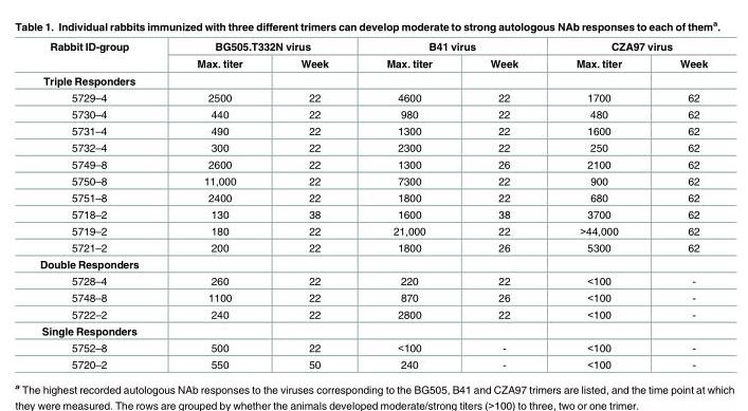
<table><thead><tr><td rowspan="2">Rabbit ID-group</td><td colspan="2">BG505.T332N virus</td><td colspan="2">B41 virus</td><td colspan="2">CZA97 virus</td></tr><tr><td>Max. titer</td><td>Week</td><td>Max. titer</td><td>Week</td><td>Max. titer</td><td>Week</td></tr></thead><tbody><tr><td colspan="7">Triple Responders</td></tr><tr><td>5729–4</td><td>2500</td><td>22</td><td>4600</td><td>22</td><td>1700</td><td>62</td></tr><tr><td>5730–4</td><td>440</td><td>22</td><td>980</td><td>22</td><td>480</td><td>62</td></tr><tr><td>5731–4</td><td>490</td><td>22</td><td>1300</td><td>22</td><td>1600</td><td>62</td></tr><tr><td>5732–4</td><td>300</td><td>22</td><td>2300</td><td>22</td><td>250</td><td>62</td></tr><tr><td>5749–8</td><td>2600</td><td>22</td><td>1300</td><td>26</td><td>2100</td><td>62</td></tr><tr><td>5750–8</td><td>11,000</td><td>22</td><td>7300</td><td>22</td><td>900</td><td>62</td></tr><tr><td>5751–8</td><td>2400</td><td>22</td><td>1800</td><td>22</td><td>680</td><td>62</td></tr><tr><td>5718–2</td><td>130</td><td>38</td><td>1600</td><td>38</td><td>3700</td><td>62</td></tr><tr><td>5719–2</td><td>180</td><td>22</td><td>21,000</td><td>22</td><td>&gt;44,000</td><td>62</td></tr><tr><td>5721–2</td><td>200</td><td>22</td><td>1800</td><td>26</td><td>5300</td><td>62</td></tr><tr><td colspan="7">Double Responders</td></tr><tr><td>5728–4</td><td>260</td><td>22</td><td>220</td><td>22</td><td>&lt;100</td><td>-</td></tr><tr><td>5748–8</td><td>1100</td><td>22</td><td>870</td><td>26</td><td>&lt;100</td><td>-</td></tr><tr><td>5722–2</td><td>240</td><td>22</td><td>2800</td><td>22</td><td>&lt;100</td><td>-</td></tr><tr><td colspan="7">Single Responders</td></tr><tr><td>5752–8</td><td>500</td><td>22</td><td>&lt;100</td><td>-</td><td>&lt;100</td><td>-</td></tr><tr><td>5720–2</td><td>550</td><td>50</td><td>240</td><td>-</td><td>&lt;100</td><td>-</td></tr></tbody></table>